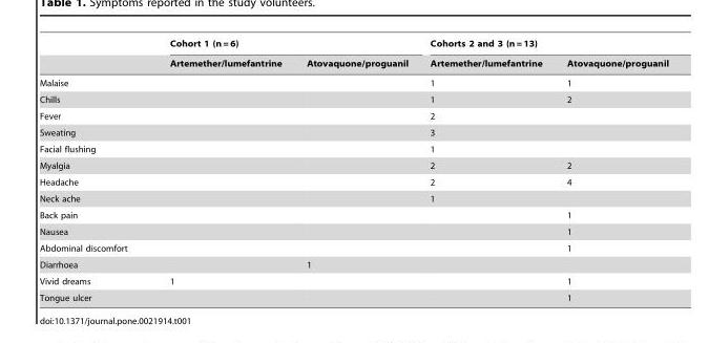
<table><thead><tr><td rowspan="2"></td><td colspan="2">Cohort 1 (n = 6)</td><td colspan="2">Cohorts 2 and 3 (n = 13)</td></tr><tr><td>Artemether/lumefantrine</td><td>Atovaquone/proguanil</td><td>Artemether/lumefantrine</td><td>Atovaquone/proguanil</td></tr></thead><tbody><tr><td>Malaise</td><td></td><td></td><td>1</td><td>1</td></tr><tr><td>Chills</td><td></td><td></td><td>1</td><td>2</td></tr><tr><td>Fever</td><td></td><td></td><td>2</td><td></td></tr><tr><td>Sweating</td><td></td><td></td><td>3</td><td></td></tr><tr><td>Facial flushing</td><td></td><td></td><td>1</td><td></td></tr><tr><td>Myalgia</td><td></td><td></td><td>2</td><td>2</td></tr><tr><td>Headache</td><td></td><td></td><td>2</td><td>4</td></tr><tr><td>Neck ache</td><td></td><td></td><td>1</td><td></td></tr><tr><td>Back pain</td><td></td><td></td><td></td><td>1</td></tr><tr><td>Nausea</td><td></td><td></td><td></td><td>1</td></tr><tr><td>Abdominal discomfort</td><td></td><td></td><td></td><td>1</td></tr><tr><td>Diarrhoea</td><td></td><td>1</td><td></td><td></td></tr><tr><td>Vivid dreams</td><td>1</td><td></td><td></td><td>1</td></tr><tr><td>Tongue ulcer</td><td></td><td></td><td></td><td>1</td></tr></tbody></table>